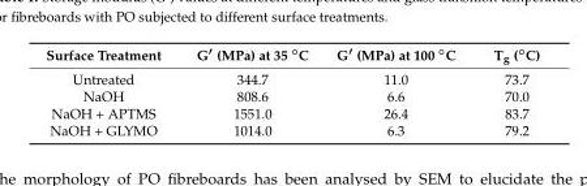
<table><thead><tr><td>Surface Treatment</td><td>G′ (MPa) at 35 ◦C</td><td>G′ (MPa) at 100 ◦C</td><td>Tg (◦C)</td></tr></thead><tbody><tr><td>Untreated</td><td>344.7</td><td>11.0</td><td>73.7</td></tr><tr><td>NaOH</td><td>808.6</td><td>6.6</td><td>70.0</td></tr><tr><td>NaOH + APTMS</td><td>1551.0</td><td>26.4</td><td>83.7</td></tr><tr><td>NaOH + GLYMO</td><td>1014.0</td><td>6.3</td><td>79.2</td></tr></tbody></table>